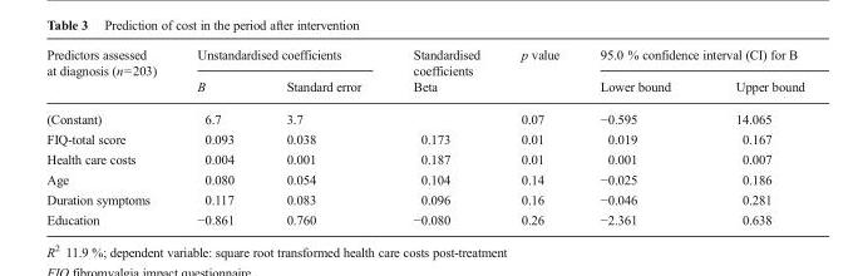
<table><thead><tr><td rowspan="2">Predictors assessed at diagnosis (n=203)</td><td colspan="2">Unstandardised coefficients</td><td rowspan="2">Standardised coefficients Beta</td><td rowspan="2">p value</td><td colspan="2">95.0 % confidence interval (CI) for B</td></tr><tr><td>B</td><td>Standard error</td><td>Lower bound</td><td>Upper bound</td></tr></thead><tbody><tr><td>(Constant)</td><td>6.7</td><td>3.7</td><td></td><td>0.07</td><td>−0.595</td><td>14.065</td></tr><tr><td>FIQ-total score</td><td>0.093</td><td>0.038</td><td>0.173</td><td>0.01</td><td>0.019</td><td>0.167</td></tr><tr><td>Health care costs</td><td>0.004</td><td>0.001</td><td>0.187</td><td>0.01</td><td>0.001</td><td>0.007</td></tr><tr><td>Age</td><td>0.080</td><td>0.054</td><td>0.104</td><td>0.14</td><td>−0.025</td><td>0.186</td></tr><tr><td>Duration symptoms</td><td>0.117</td><td>0.083</td><td>0.096</td><td>0.16</td><td>−0.046</td><td>0.281</td></tr><tr><td>Education</td><td>−0.861</td><td>0.760</td><td>−0.080</td><td>0.26</td><td>−2.361</td><td>0.638</td></tr></tbody></table>